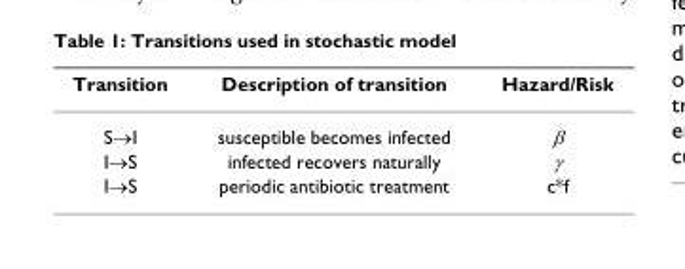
<table><thead><tr><td>Transition</td><td>Description of transition</td><td>Hazard/Risk</td></tr></thead><tbody><tr><td>S→I</td><td>susceptible becomes infected</td><td>β</td></tr><tr><td>I→S</td><td>infected recovers naturally</td><td>γ</td></tr><tr><td>I→S</td><td>periodic antibiotic treatment</td><td>c*f</td></tr></tbody></table>